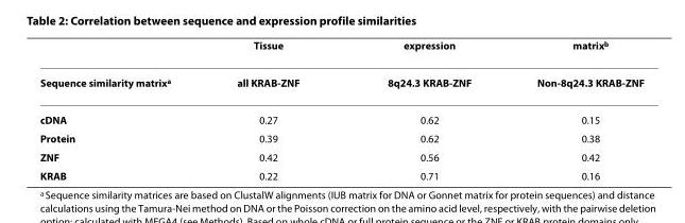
<table><thead><tr><td></td><td>Tissue</td><td>expression</td><td>matrix<sup>b</sup></td></tr></thead><tbody><tr><td>Sequence similarity matrix<sup>a</sup></td><td>all KRAB-ZNF</td><td>8q24.3 KRAB-ZNF</td><td>Non-8q24.3 KRAB-ZNF</td></tr><tr><td>cDNA</td><td>0.27</td><td>0.62</td><td>0.15</td></tr><tr><td>Protein</td><td>0.39</td><td>0.62</td><td>0.38</td></tr><tr><td>ZNF</td><td>0.42</td><td>0.56</td><td>0.42</td></tr><tr><td>KRAB</td><td>0.22</td><td>0.71</td><td>0.16</td></tr></tbody></table>